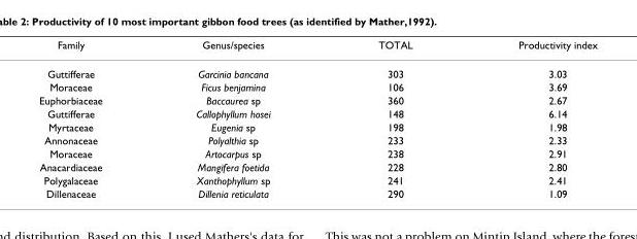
<table><thead><tr><td>Family</td><td>Genus/species</td><td>TOTAL</td><td>Productivity index</td></tr></thead><tbody><tr><td>Guttifferae</td><td>Garcinia bancana</td><td>303</td><td>3.03</td></tr><tr><td>Moraceae</td><td>Ficus benjamina</td><td>106</td><td>3.69</td></tr><tr><td>Euphorbiaceae</td><td>Baccaurea sp</td><td>360</td><td>2.67</td></tr><tr><td>Guttifferae</td><td>Callophyllum hosei</td><td>148</td><td>6.14</td></tr><tr><td>Myrtaceae</td><td>Eugenia sp</td><td>198</td><td>1.98</td></tr><tr><td>Annonaceae</td><td>Polyalthia sp</td><td>233</td><td>2.33</td></tr><tr><td>Moraceae</td><td>Artocarpus sp</td><td>238</td><td>2.91</td></tr><tr><td>Anacardiaceae</td><td>Mangifera foetida</td><td>228</td><td>2.80</td></tr><tr><td>Polygalaceae</td><td>Xanthophyllum sp</td><td>241</td><td>2.41</td></tr><tr><td>Dillenaceae</td><td>Dillenia reticulata</td><td>290</td><td>1.09</td></tr></tbody></table>